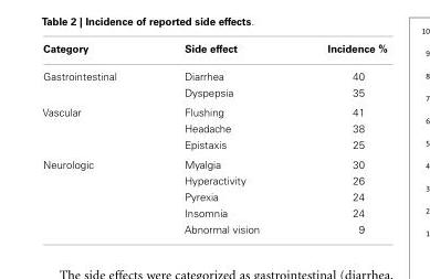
<table><thead><tr><td>Category</td><td>Side effect</td><td>Incidence %</td></tr></thead><tbody><tr><td rowspan="2">Gastrointestinal</td><td>Diarrhea</td><td>40</td></tr><tr><td>Dyspepsia</td><td>35</td></tr><tr><td rowspan="3">Vascular</td><td>Flushing</td><td>41</td></tr><tr><td>Headache</td><td>38</td></tr><tr><td>Epistaxis</td><td>25</td></tr><tr><td rowspan="5">Neurologic</td><td>Myalgia</td><td>30</td></tr><tr><td>Hyperactivity</td><td>26</td></tr><tr><td>Pyrexia</td><td>24</td></tr><tr><td>Insomnia</td><td>24</td></tr><tr><td>Abnormal vision</td><td>9</td></tr></tbody></table>